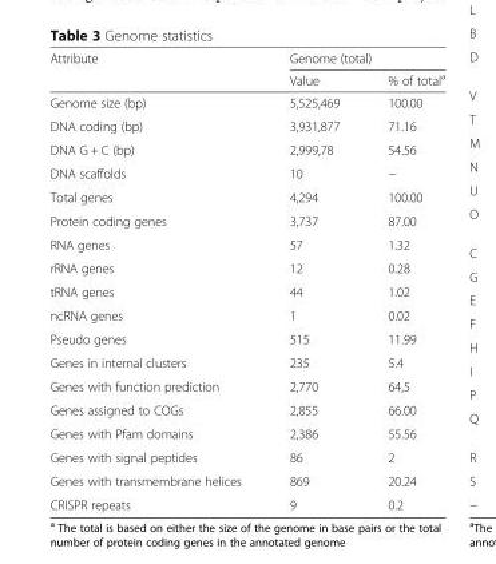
<table><thead><tr><td rowspan="2">Attribute</td><td colspan="2">Genome (total)</td></tr><tr><td>Value</td><td>% of total<sup>a</sup></td></tr></thead><tbody><tr><td>Genome size (bp)</td><td>5,525,469</td><td>100.00</td></tr><tr><td>DNA coding (bp)</td><td>3,931,877</td><td>71.16</td></tr><tr><td>DNA G + C (bp)</td><td>2,999,78</td><td>54.56</td></tr><tr><td>DNA scaffolds</td><td>10</td><td>−</td></tr><tr><td>Total genes</td><td>4,294</td><td>100.00</td></tr><tr><td>Protein coding genes</td><td>3,737</td><td>87.00</td></tr><tr><td>RNA genes</td><td>57</td><td>1.32</td></tr><tr><td>rRNA genes</td><td>12</td><td>0.28</td></tr><tr><td>tRNA genes</td><td>44</td><td>1.02</td></tr><tr><td>ncRNA genes</td><td>1</td><td>0.02</td></tr><tr><td>Pseudo genes</td><td>515</td><td>11.99</td></tr><tr><td>Genes in internal clusters</td><td>235</td><td>5.4</td></tr><tr><td>Genes with function prediction</td><td>2,770</td><td>64,5</td></tr><tr><td>Genes assigned to COGs</td><td>2,855</td><td>66.00</td></tr><tr><td>Genes with Pfam domains</td><td>2,386</td><td>55.56</td></tr><tr><td>Genes with signal peptides</td><td>86</td><td>2</td></tr><tr><td>Genes with transmembrane helices</td><td>869</td><td>20.24</td></tr><tr><td>CRISPR repeats</td><td>9</td><td>0.2</td></tr></tbody></table>